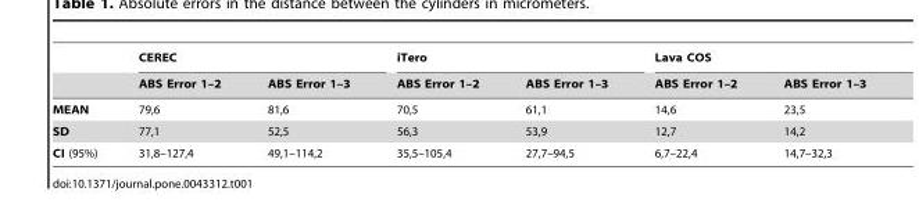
<table><thead><tr><td rowspan="2"></td><td colspan="2">CEREC</td><td colspan="2">iTero</td><td colspan="2">Lava COS</td></tr><tr><td>ABS Error 1–2</td><td>ABS Error 1–3</td><td>ABS Error 1–2</td><td>ABS Error 1–3</td><td>ABS Error 1–2</td><td>ABS Error 1–3</td></tr></thead><tbody><tr><td>MEAN</td><td>79,6</td><td>81,6</td><td>70,5</td><td>61,1</td><td>14,6</td><td>23,5</td></tr><tr><td>SD</td><td>77,1</td><td>52,5</td><td>56,3</td><td>53,9</td><td>12,7</td><td>14,2</td></tr><tr><td>CI (95%)</td><td>31,8–127,4</td><td>49,1–114,2</td><td>35,5–105,4</td><td>27,7–94,5</td><td>6,7–22,4</td><td>14,7–32,3</td></tr></tbody></table>